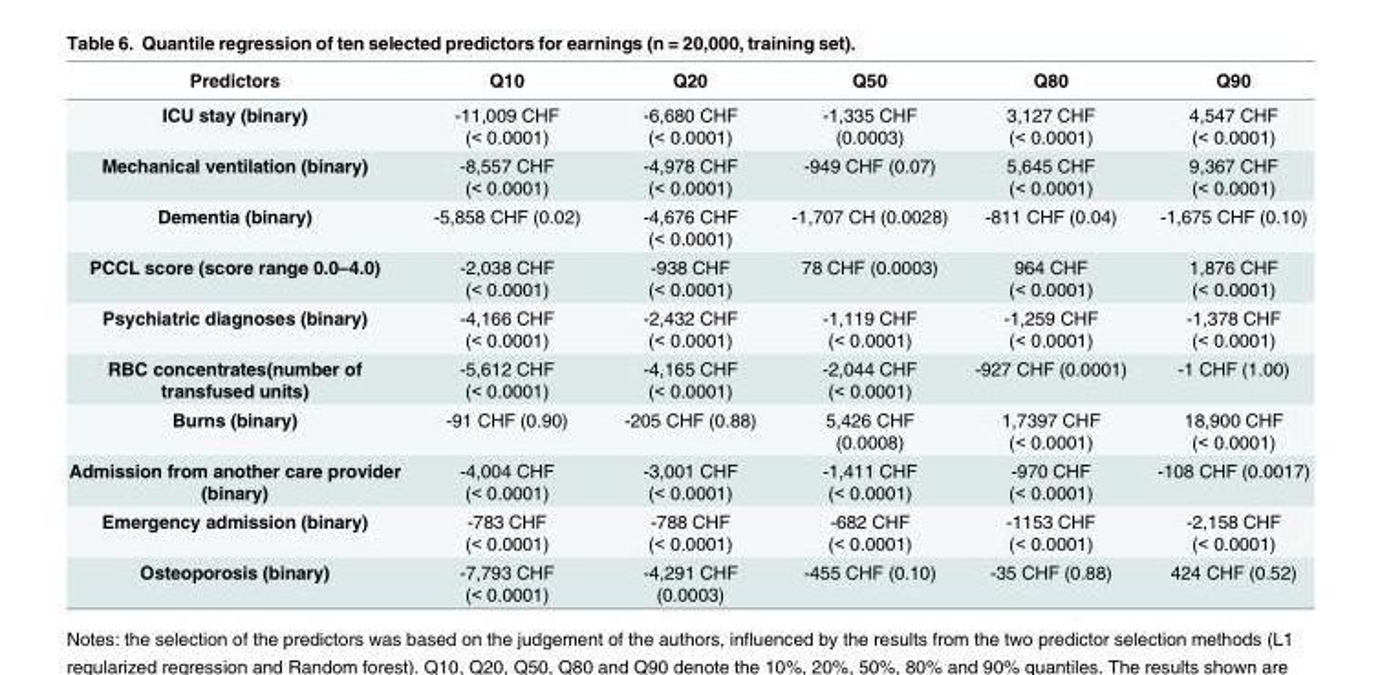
<table><thead><tr><td>Predictors</td><td>Q10</td><td>Q20</td><td>Q50</td><td>Q80</td><td>Q90</td></tr></thead><tbody><tr><td>ICU stay (binary)</td><td>-11,009 CHF (&lt; 0.0001)</td><td>-6,680 CHF (&lt; 0.0001)</td><td>-1,335 CHF (0.0003)</td><td>3,127 CHF (&lt; 0.0001)</td><td>4,547 CHF (&lt; 0.0001)</td></tr><tr><td>Mechanical ventilation (binary)</td><td>-8,557 CHF (&lt; 0.0001)</td><td>-4,978 CHF (&lt; 0.0001)</td><td>-949 CHF (0.07)</td><td>5,645 CHF (&lt; 0.0001)</td><td>9,367 CHF (&lt; 0.0001)</td></tr><tr><td>Dementia (binary)</td><td>-5,858 CHF (0.02)</td><td>-4,676 CHF (&lt; 0.0001)</td><td>-1,707 CH (0.0028)</td><td>-811 CHF (0.04)</td><td>-1,675 CHF (0.10)</td></tr><tr><td>PCCL score (score range 0.0–4.0)</td><td>-2,038 CHF (&lt; 0.0001)</td><td>-938 CHF (&lt; 0.0001)</td><td>78 CHF (0.0003)</td><td>964 CHF (&lt; 0.0001)</td><td>1,876 CHF (&lt; 0.0001)</td></tr><tr><td>Psychiatric diagnoses (binary)</td><td>-4,166 CHF (&lt; 0.0001)</td><td>-2,432 CHF (&lt; 0.0001)</td><td>-1,119 CHF (&lt; 0.0001)</td><td>-1,259 CHF (&lt; 0.0001)</td><td>-1,378 CHF (&lt; 0.0001)</td></tr><tr><td>RBC concentrates(number of transfused units)</td><td>-5,612 CHF (&lt; 0.0001)</td><td>-4,165 CHF (&lt; 0.0001)</td><td>-2,044 CHF (&lt; 0.0001)</td><td>-927 CHF (0.0001)</td><td>-1 CHF (1.00)</td></tr><tr><td>Burns (binary)</td><td>-91 CHF (0.90)</td><td>-205 CHF (0.88)</td><td>5,426 CHF (0.0008)</td><td>1,7397 CHF (&lt; 0.0001)</td><td>18,900 CHF (&lt; 0.0001)</td></tr><tr><td>Admission from another care provider (binary)</td><td>-4,004 CHF (&lt; 0.0001)</td><td>-3,001 CHF (&lt; 0.0001)</td><td>-1,411 CHF (&lt; 0.0001)</td><td>-970 CHF (&lt; 0.0001)</td><td>-108 CHF (0.0017)</td></tr><tr><td>Emergency admission (binary)</td><td>-783 CHF (&lt; 0.0001)</td><td>-788 CHF (&lt; 0.0001)</td><td>-682 CHF (&lt; 0.0001)</td><td>-1153 CHF (&lt; 0.0001)</td><td>-2,158 CHF (&lt; 0.0001)</td></tr><tr><td>Osteoporosis (binary)</td><td>-7,793 CHF (&lt; 0.0001)</td><td>-4,291 CHF (0.0003)</td><td>-455 CHF (0.10)</td><td>-35 CHF (0.88)</td><td>424 CHF (0.52)</td></tr></tbody></table>